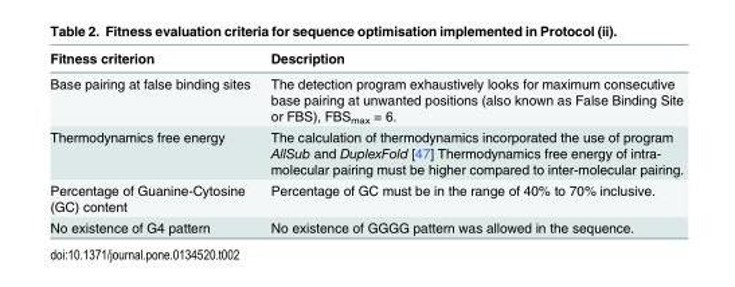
<table><thead><tr><td>Fitness criterion</td><td>Description</td></tr></thead><tbody><tr><td>Base pairing at false binding sites</td><td>The detection program exhaustively looks for maximum consecutive base pairing at unwanted positions (also known as False Binding Site or FBS), FBS<sub>max</sub> = 6.</td></tr><tr><td>Thermodynamics free energy</td><td>The calculation of thermodynamics incorporated the use of program AllSub and DuplexFold [47] Thermodynamics free energy of intra- molecular pairing must be higher compared to inter-molecular pairing.</td></tr><tr><td>Percentage of Guanine-Cytosine (GC) content</td><td>Percentage of GC must be in the range of 40% to 70% inclusive.</td></tr><tr><td>No existence of G4 pattern</td><td>No existence of GGGG pattern was allowed in the sequence.</td></tr></tbody></table>